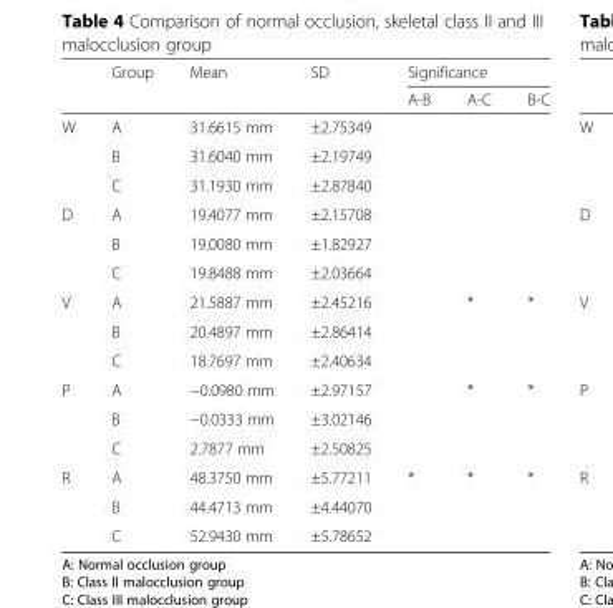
<table><thead><tr><td rowspan="2"></td><td rowspan="2">Group</td><td rowspan="2">Mean</td><td rowspan="2">SD</td><td colspan="3">Significance</td></tr><tr><td>A-B</td><td>A-C</td><td>B-C</td></tr></thead><tbody><tr><td rowspan="3">W</td><td>A</td><td>31.6615 mm</td><td>±2.75349</td><td rowspan="3"></td><td rowspan="3"></td><td rowspan="3"></td></tr><tr><td>B</td><td>31.6040 mm</td><td>±2.19749</td></tr><tr><td>C</td><td>31.1930 mm</td><td>±2.87840</td></tr><tr><td rowspan="3">D</td><td>A</td><td>19.4077 mm</td><td>±2.15708</td><td rowspan="3"></td><td rowspan="3"></td><td rowspan="3"></td></tr><tr><td>B</td><td>19.0080 mm</td><td>±1.82927</td></tr><tr><td>C</td><td>19.8488 mm</td><td>±2.03664</td></tr><tr><td rowspan="3">V</td><td>A</td><td>21.5887 mm</td><td>±2.45216</td><td rowspan="3"></td><td rowspan="3">*</td><td rowspan="3">*</td></tr><tr><td>B</td><td>20.4897 mm</td><td>±2.86414</td></tr><tr><td>C</td><td>18.7697 mm</td><td>±2.40634</td></tr><tr><td rowspan="3">P</td><td>A</td><td>−0.0980 mm</td><td>±2.97157</td><td rowspan="3"></td><td rowspan="3">*</td><td rowspan="3">*</td></tr><tr><td>B</td><td>−0.0333 mm</td><td>±3.02146</td></tr><tr><td>C</td><td>2.7877 mm</td><td>±2.50825</td></tr><tr><td rowspan="3">R</td><td>A</td><td>48.3750 mm</td><td>±5.77211</td><td rowspan="3">*</td><td rowspan="3">*</td><td rowspan="3">*</td></tr><tr><td>B</td><td>44.4713 mm</td><td>±4.44070</td></tr><tr><td>C</td><td>52.9430 mm</td><td>±5.78652</td></tr></tbody></table>